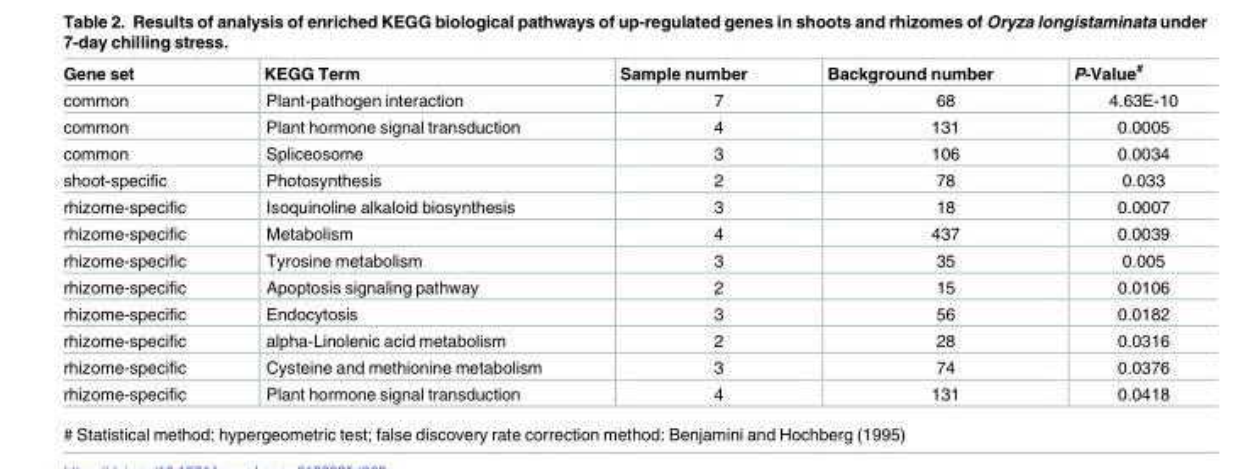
<table><thead><tr><td>Gene set</td><td>KEGG Term</td><td>Sample number</td><td>Background number</td><td>P-Value<sup>#</sup></td></tr></thead><tbody><tr><td>common</td><td>Plant-pathogen interaction</td><td>7</td><td>68</td><td>4.63E-10</td></tr><tr><td>common</td><td>Plant hormone signal transduction</td><td>4</td><td>131</td><td>0.0005</td></tr><tr><td>common</td><td>Spliceosome</td><td>3</td><td>106</td><td>0.0034</td></tr><tr><td>shoot-specific</td><td>Photosynthesis</td><td>2</td><td>78</td><td>0.033</td></tr><tr><td>rhizome-specific</td><td>Isoquinoline alkaloid biosynthesis</td><td>3</td><td>18</td><td>0.0007</td></tr><tr><td>rhizome-specific</td><td>Metabolism</td><td>4</td><td>437</td><td>0.0039</td></tr><tr><td>rhizome-specific</td><td>Tyrosine metabolism</td><td>3</td><td>35</td><td>0.005</td></tr><tr><td>rhizome-specific</td><td>Apoptosis signaling pathway</td><td>2</td><td>15</td><td>0.0106</td></tr><tr><td>rhizome-specific</td><td>Endocytosis</td><td>3</td><td>56</td><td>0.0182</td></tr><tr><td>rhizome-specific</td><td>alpha-Linolenic acid metabolism</td><td>2</td><td>28</td><td>0.0316</td></tr><tr><td>rhizome-specific</td><td>Cysteine and methionine metabolism</td><td>3</td><td>74</td><td>0.0376</td></tr><tr><td>rhizome-specific</td><td>Plant hormone signal transduction</td><td>4</td><td>131</td><td>0.0418</td></tr></tbody></table>